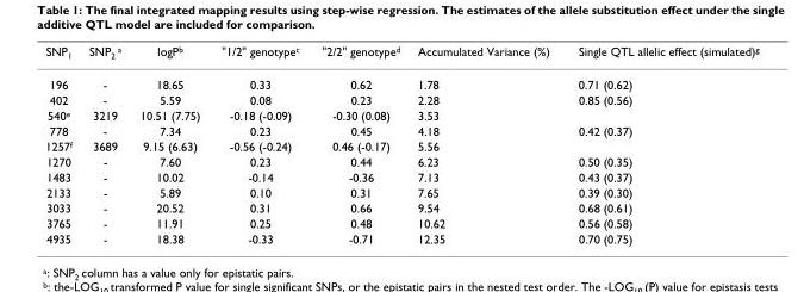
<table><thead><tr><td>SNP<sub>1</sub></td><td>SNP<sub>2</sub> <sup>a</sup></td><td>logP<sup>b</sup></td><td>&quot;1/2&quot; genotype<sup>c</sup></td><td>&quot;2/2&quot; genotype<sup>d</sup></td><td>Accumulated Variance (%)</td><td>Single QTL allelic effect (simulated)<sup>g</sup></td></tr></thead><tbody><tr><td>196</td><td>-</td><td>18.65</td><td>0.33</td><td>0.62</td><td>1.78</td><td>0.71 (0.62)</td></tr><tr><td>402</td><td>-</td><td>5.59</td><td>0.08</td><td>0.23</td><td>2.28</td><td>0.85 (0.56)</td></tr><tr><td>540<sup>e</sup></td><td>3219</td><td>10.51 (7.75)</td><td>-0.18 (-0.09)</td><td>-0.30 (0.08)</td><td>3.53</td><td></td></tr><tr><td>778</td><td>-</td><td>7.34</td><td>0.23</td><td>0.45</td><td>4.18</td><td>0.42 (0.37)</td></tr><tr><td>1257<sup>f</sup></td><td>3689</td><td>9.15 (6.63)</td><td>-0.56 (-0.24)</td><td>0.46 (-0.17)</td><td>5.56</td><td></td></tr><tr><td>1270</td><td>-</td><td>7.60</td><td>0.23</td><td>0.44</td><td>6.23</td><td>0.50 (0.35)</td></tr><tr><td>1483</td><td>-</td><td>10.02</td><td>-0.14</td><td>-0.36</td><td>7.13</td><td>0.43 (0.37)</td></tr><tr><td>2133</td><td>-</td><td>5.89</td><td>0.10</td><td>0.31</td><td>7.65</td><td>0.39 (0.30)</td></tr><tr><td>3033</td><td>-</td><td>20.52</td><td>0.31</td><td>0.66</td><td>9.54</td><td>0.68 (0.61)</td></tr><tr><td>3765</td><td>-</td><td>11.91</td><td>0.25</td><td>0.48</td><td>10.62</td><td>0.56 (0.58)</td></tr><tr><td>4935</td><td>-</td><td>18.38</td><td>-0.33</td><td>-0.71</td><td>12.35</td><td>0.70 (0.75)</td></tr></tbody></table>